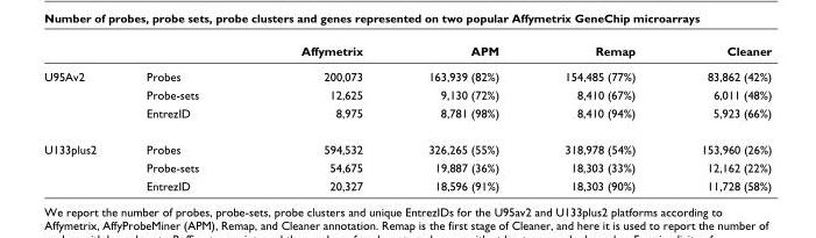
<table><thead><tr><td></td><td></td><td>Affymetrix</td><td>APM</td><td>Remap</td><td>Cleaner</td></tr></thead><tbody><tr><td rowspan="3">U95Av2</td><td>Probes</td><td>200,073</td><td>163,939 (82%)</td><td>154,485 (77%)</td><td>83,862 (42%)</td></tr><tr><td>Probe-sets</td><td>12,625</td><td>9,130 (72%)</td><td>8,410 (67%)</td><td>6,011 (48%)</td></tr><tr><td>EntrezID</td><td>8,975</td><td>8,781 (98%)</td><td>8,410 (94%)</td><td>5,923 (66%)</td></tr><tr><td rowspan="3">U133plus2</td><td>Probes</td><td>594,532</td><td>326,265 (55%)</td><td>318,978 (54%)</td><td>153,960 (26%)</td></tr><tr><td>Probe-sets</td><td>54,675</td><td>19,887 (36%)</td><td>18,303 (33%)</td><td>12,162 (22%)</td></tr><tr><td>EntrezID</td><td>20,327</td><td>18,596 (91%)</td><td>18,303 (90%)</td><td>11,728 (58%)</td></tr></tbody></table>